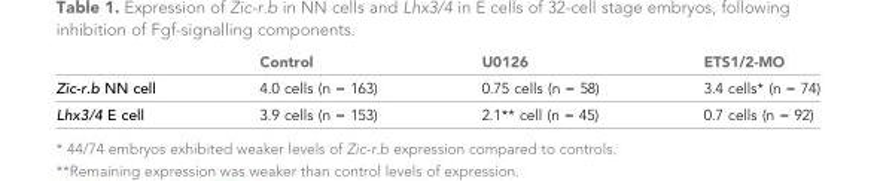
<table><thead><tr><td></td><td>Control</td><td>U0126</td><td>ETS1/2-MO</td></tr></thead><tbody><tr><td>Zic-r.b NN cell</td><td>4.0 cells (n = 163)</td><td>0.75 cells (n = 58)</td><td>3.4 cells* (n = 74)</td></tr><tr><td>Lhx3/4 E cell</td><td>3.9 cells (n = 153)</td><td>2.1** cell (n = 45)</td><td>0.7 cells (n = 92)</td></tr></tbody></table>